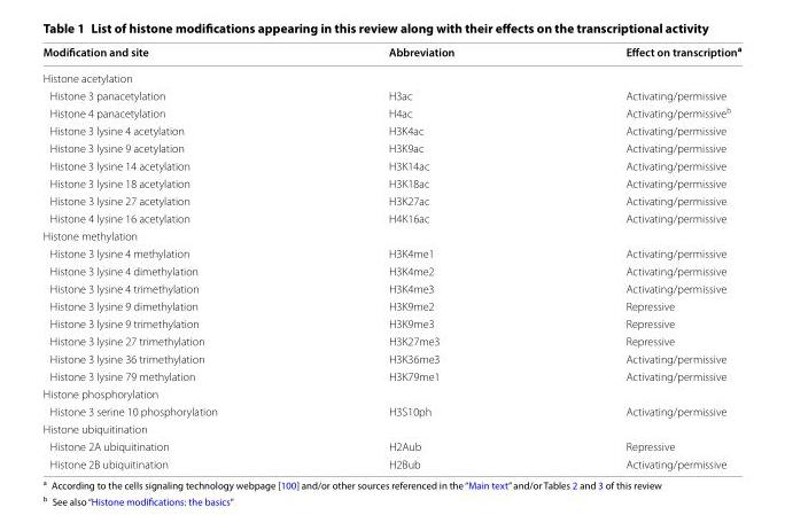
<table><thead><tr><td>Modification and site</td><td>Abbreviation</td><td>Effect on transcription<sup>a</sup></td></tr></thead><tbody><tr><td colspan="3">Histone acetylation</td></tr><tr><td>Histone 3 panacetylation</td><td>H3ac</td><td>Activating/permissive</td></tr><tr><td>Histone 4 panacetylation</td><td>H4ac</td><td>Activating/permissive<sup>b</sup></td></tr><tr><td>Histone 3 lysine 4 acetylation</td><td>H3K4ac</td><td>Activating/permissive</td></tr><tr><td>Histone 3 lysine 9 acetylation</td><td>H3K9ac</td><td>Activating/permissive</td></tr><tr><td>Histone 3 lysine 14 acetylation</td><td>H3K14ac</td><td>Activating/permissive</td></tr><tr><td>Histone 3 lysine 18 acetylation</td><td>H3K18ac</td><td>Activating/permissive</td></tr><tr><td>Histone 3 lysine 27 acetylation</td><td>H3K27ac</td><td>Activating/permissive</td></tr><tr><td>Histone 4 lysine 16 acetylation</td><td>H4K16ac</td><td>Activating/permissive</td></tr><tr><td colspan="3">Histone methylation</td></tr><tr><td>Histone 3 lysine 4 methylation</td><td>H3K4me1</td><td>Activating/permissive</td></tr><tr><td>Histone 3 lysine 4 dimethylation</td><td>H3K4me2</td><td>Activating/permissive</td></tr><tr><td>Histone 3 lysine 4 trimethylation</td><td>H3K4me3</td><td>Activating/permissive</td></tr><tr><td>Histone 3 lysine 9 dimethylation</td><td>H3K9me2</td><td>Repressive</td></tr><tr><td>Histone 3 lysine 9 trimethylation</td><td>H3K9me3</td><td>Repressive</td></tr><tr><td>Histone 3 lysine 27 trimethylation</td><td>H3K27me3</td><td>Repressive</td></tr><tr><td>Histone 3 lysine 36 trimethylation</td><td>H3K36me3</td><td>Activating/permissive</td></tr><tr><td>Histone 3 lysine 79 methylation</td><td>H3K79me1</td><td>Activating/permissive</td></tr><tr><td colspan="3">Histone phosphorylation</td></tr><tr><td>Histone 3 serine 10 phosphorylation</td><td>H3S10ph</td><td>Activating/permissive</td></tr><tr><td colspan="3">Histone ubiquitination</td></tr><tr><td>Histone 2A ubiquitination</td><td>H2Aub</td><td>Repressive</td></tr><tr><td>Histone 2B ubiquitination</td><td>H2Bub</td><td>Activating/permissive</td></tr></tbody></table>